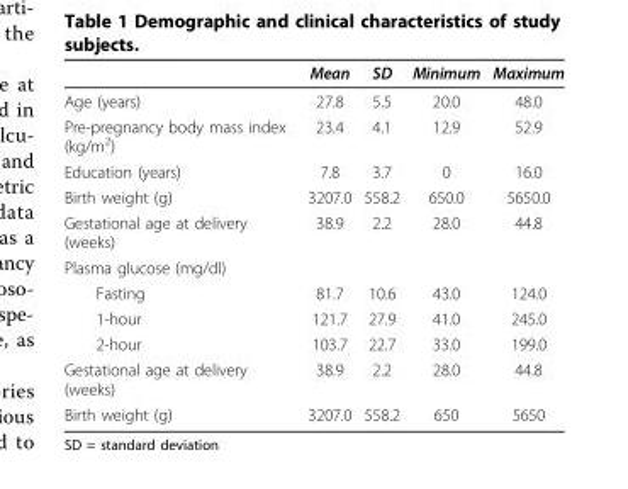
<table><thead><tr><td></td><td>Mean</td><td>SD</td><td>Minimum</td><td>Maximum</td></tr></thead><tbody><tr><td>Age (years)</td><td>27.8</td><td>5.5</td><td>20.0</td><td>48.0</td></tr><tr><td>Pre-pregnancy body mass index (kg/m<sup>2</sup>)</td><td>23.4</td><td>4.1</td><td>12.9</td><td>52.9</td></tr><tr><td>Education (years)</td><td>7.8</td><td>3.7</td><td>0</td><td>16.0</td></tr><tr><td>Birth weight (g)</td><td>3207.0</td><td>558.2</td><td>650.0</td><td>5650.0</td></tr><tr><td>Gestational age at delivery (weeks)</td><td>38.9</td><td>2.2</td><td>28.0</td><td>44.8</td></tr><tr><td colspan="5">Plasma glucose (mg/dl)</td></tr><tr><td>Fasting</td><td>81.7</td><td>10.6</td><td>43.0</td><td>124.0</td></tr><tr><td>1-hour</td><td>121.7</td><td>27.9</td><td>41.0</td><td>245.0</td></tr><tr><td>2-hour</td><td>103.7</td><td>22.7</td><td>33.0</td><td>199.0</td></tr><tr><td>Gestational age at delivery (weeks)</td><td>38.9</td><td>2.2</td><td>28.0</td><td>44.8</td></tr><tr><td>Birth weight (g)</td><td>3207.0</td><td>558.2</td><td>650</td><td>5650</td></tr></tbody></table>